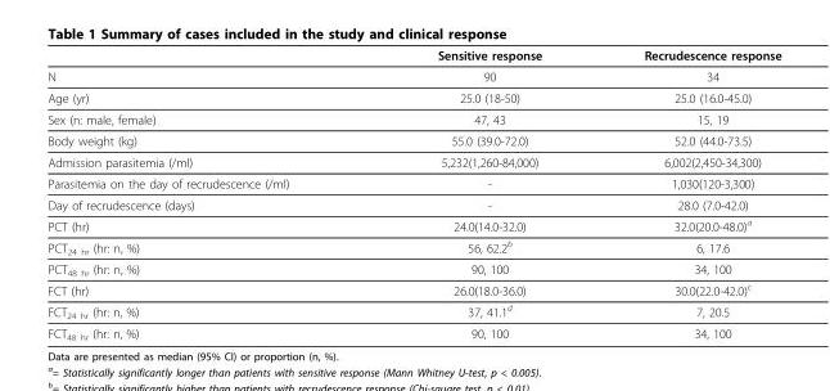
<table><thead><tr><td></td><td>Sensitive response</td><td>Recrudescence response</td></tr></thead><tbody><tr><td>N</td><td>90</td><td>34</td></tr><tr><td>Age (yr)</td><td>25.0 (18-50)</td><td>25.0 (16.0-45.0)</td></tr><tr><td>Sex (n: male, female)</td><td>47, 43</td><td>15, 19</td></tr><tr><td>Body weight (kg)</td><td>55.0 (39.0-72.0)</td><td>52.0 (44.0-73.5)</td></tr><tr><td>Admission parasitemia (/ml)</td><td>5,232(1,260-84,000)</td><td>6,002(2,450-34,300)</td></tr><tr><td>Parasitemia on the day of recrudescence (/ml)</td><td>-</td><td>1,030(120-3,300)</td></tr><tr><td>Day of recrudescence (days)</td><td>-</td><td>28.0 (7.0-42.0)</td></tr><tr><td>PCT (hr)</td><td>24.0(14.0-32.0)</td><td>32.0(20.0-48.0)<sup>a</sup></td></tr><tr><td>PCT<sub>24 hr</sub> (hr: n, %)</td><td>56, 62.2<sup>b</sup></td><td>6, 17.6</td></tr><tr><td>PCT<sub>48 hr</sub> (hr: n, %)</td><td>90, 100</td><td>34, 100</td></tr><tr><td>FCT (hr)</td><td>26.0(18.0-36.0)</td><td>30.0(22.0-42.0)<sup>c</sup></td></tr><tr><td>FCT<sub>24 hr</sub> (hr: n, %)</td><td>37, 41.1<sup>d</sup></td><td>7, 20.5</td></tr><tr><td>FCT<sub>48 hr</sub> (hr: n, %)</td><td>90, 100</td><td>34, 100</td></tr></tbody></table>